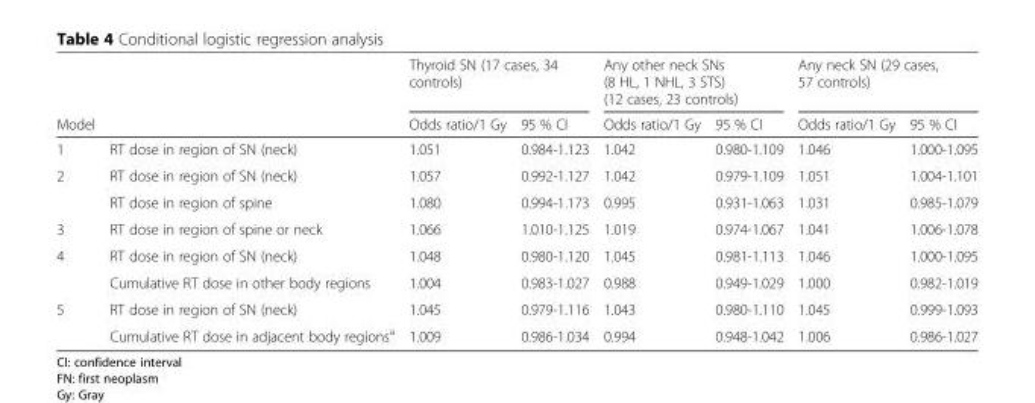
<table><thead><tr><td rowspan="2">Model</td><td rowspan="2"></td><td colspan="2">Thyroid SN (17 cases, 34 controls)</td><td colspan="2">Any other neck SNs (8 HL, 1 NHL, 3 STS) (12 cases, 23 controls)</td><td colspan="2">Any neck SN (29 cases, 57 controls)</td></tr><tr><td>Odds ratio/1 Gy</td><td>95 % CI</td><td>Odds ratio/1 Gy</td><td>95 % CI</td><td>Odds ratio/1 Gy</td><td>95 % CI</td></tr></thead><tbody><tr><td>1</td><td>RT dose in region of SN (neck)</td><td>1.051</td><td>0.984-1.123</td><td>1.042</td><td>0.980-1.109</td><td>1.046</td><td>1.000-1.095</td></tr><tr><td rowspan="2">2</td><td>RT dose in region of SN (neck)</td><td>1.057</td><td>0.992-1.127</td><td>1.042</td><td>0.979-1.109</td><td>1.051</td><td>1.004-1.101</td></tr><tr><td>RT dose in region of spine</td><td>1.080</td><td>0.994-1.173</td><td>0.995</td><td>0.931-1.063</td><td>1.031</td><td>0.985-1.079</td></tr><tr><td>3</td><td>RT dose in region of spine or neck</td><td>1.066</td><td>1.010-1.125</td><td>1.019</td><td>0.974-1.067</td><td>1.041</td><td>1.006-1.078</td></tr><tr><td rowspan="2">4</td><td>RT dose in region of SN (neck)</td><td>1.048</td><td>0.980-1.120</td><td>1.045</td><td>0.981-1.113</td><td>1.046</td><td>1.000-1.095</td></tr><tr><td>Cumulative RT dose in other body regions</td><td>1.004</td><td>0.983-1.027</td><td>0.988</td><td>0.949-1.029</td><td>1.000</td><td>0.982-1.019</td></tr><tr><td rowspan="2">5</td><td>RT dose in region of SN (neck)</td><td>1.045</td><td>0.979-1.116</td><td>1.043</td><td>0.980-1.110</td><td>1.045</td><td>0.999-1.093</td></tr><tr><td>Cumulative RT dose in adjacent body regions<sup>a</sup></td><td>1.009</td><td>0.986-1.034</td><td>0.994</td><td>0.948-1.042</td><td>1.006</td><td>0.986-1.027</td></tr></tbody></table>